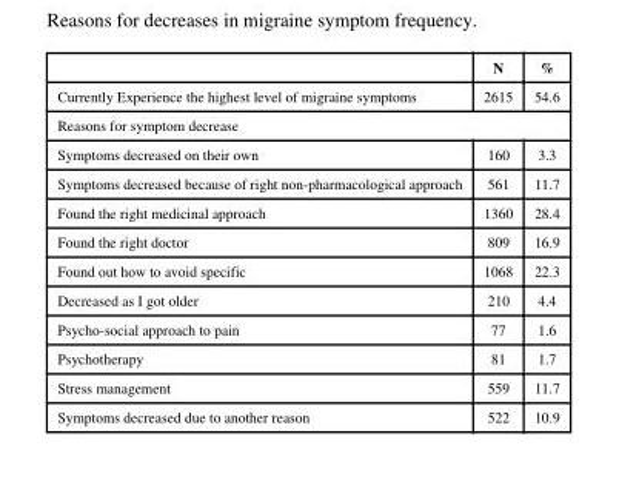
<table><thead><tr><td></td><td>N</td><td>%</td></tr></thead><tbody><tr><td>Currently Experience the highest level of migraine symptoms</td><td>2615</td><td>54.6</td></tr><tr><td colspan="3">Reasons for symptom decrease</td></tr><tr><td>Symptoms decreased on their own</td><td>160</td><td>3.3</td></tr><tr><td>Symptoms decreased because of right non-pharmacological approach</td><td>561</td><td>11.7</td></tr><tr><td>Found the right medicinal approach</td><td>1360</td><td>28.4</td></tr><tr><td>Found the right doctor</td><td>809</td><td>16.9</td></tr><tr><td>Found out how to avoid specific</td><td>1068</td><td>22.3</td></tr><tr><td>Decreased as I got older</td><td>210</td><td>4.4</td></tr><tr><td>Psycho-social approach to pain</td><td>77</td><td>1.6</td></tr><tr><td>Psychotherapy</td><td>81</td><td>1.7</td></tr><tr><td>Stress management</td><td>559</td><td>11.7</td></tr><tr><td>Symptoms decreased due to another reason</td><td>522</td><td>10.9</td></tr></tbody></table>